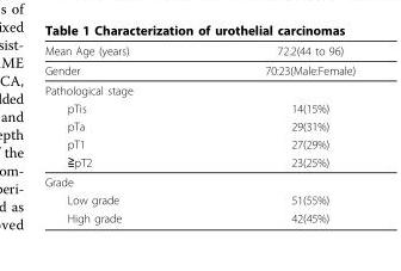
<table><thead><tr><td>Mean Age (years)</td><td>72.2(44 to 96)</td></tr></thead><tbody><tr><td>Gender</td><td>70:23(Male:Female)</td></tr><tr><td colspan="2">Pathological stage</td></tr><tr><td>pTis</td><td>14(15%)</td></tr><tr><td>pTa</td><td>29(31%)</td></tr><tr><td>pT1</td><td>27(29%)</td></tr><tr><td>≧pT2</td><td>23(25%)</td></tr><tr><td colspan="2">Grade</td></tr><tr><td>Low grade</td><td>51(55%)</td></tr><tr><td>High grade</td><td>42(45%)</td></tr></tbody></table>